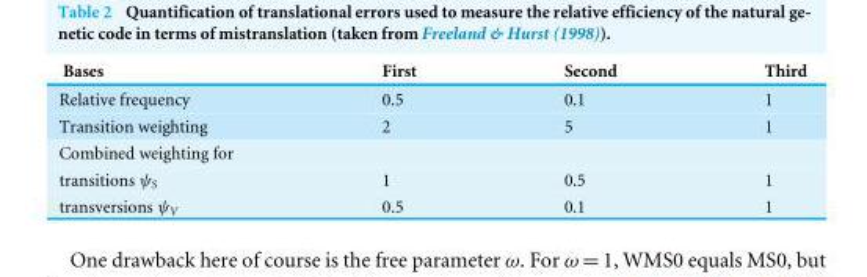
<table><thead><tr><td>Bases</td><td>First</td><td>Second</td><td>Third</td></tr></thead><tbody><tr><td>Relative frequency</td><td>0.5</td><td>0.1</td><td>1</td></tr><tr><td>Transition weighting</td><td>2</td><td>5</td><td>1</td></tr><tr><td colspan="4">Combined weighting for</td></tr><tr><td>transitions ψ<sub>S</sub></td><td>1</td><td>0.5</td><td>1</td></tr><tr><td>transversions ψ<sub>V</sub></td><td>0.5</td><td>0.1</td><td>1</td></tr></tbody></table>